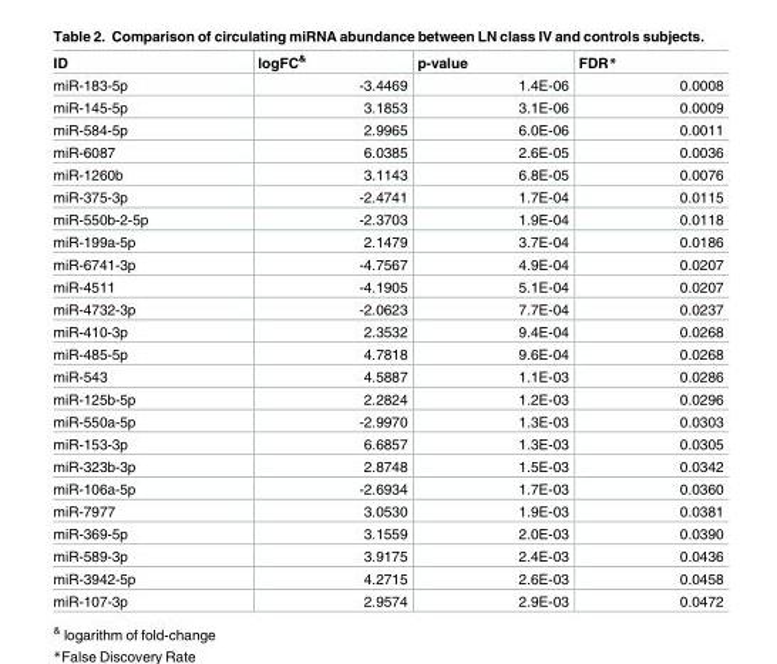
<table><thead><tr><td>ID</td><td>logFC<sup>&amp;</sup></td><td>p-value</td><td>FDR*</td></tr></thead><tbody><tr><td>miR-183-5p</td><td>-3.4469</td><td>1.4E-06</td><td>0.0008</td></tr><tr><td>miR-145-5p</td><td>3.1853</td><td>3.1E-06</td><td>0.0009</td></tr><tr><td>miR-584-5p</td><td>2.9965</td><td>6.0E-06</td><td>0.0011</td></tr><tr><td>miR-6087</td><td>6.0385</td><td>2.6E-05</td><td>0.0036</td></tr><tr><td>miR-1260b</td><td>3.1143</td><td>6.8E-05</td><td>0.0076</td></tr><tr><td>miR-375-3p</td><td>-2.4741</td><td>1.7E-04</td><td>0.0115</td></tr><tr><td>miR-550b-2-5p</td><td>-2.3703</td><td>1.9E-04</td><td>0.0118</td></tr><tr><td>miR-199a-5p</td><td>2.1479</td><td>3.7E-04</td><td>0.0186</td></tr><tr><td>miR-6741-3p</td><td>-4.7567</td><td>4.9E-04</td><td>0.0207</td></tr><tr><td>miR-4511</td><td>-4.1905</td><td>5.1E-04</td><td>0.0207</td></tr><tr><td>miR-4732-3p</td><td>-2.0623</td><td>7.7E-04</td><td>0.0237</td></tr><tr><td>miR-410-3p</td><td>2.3532</td><td>9.4E-04</td><td>0.0268</td></tr><tr><td>miR-485-5p</td><td>4.7818</td><td>9.6E-04</td><td>0.0268</td></tr><tr><td>miR-543</td><td>4.5887</td><td>1.1E-03</td><td>0.0286</td></tr><tr><td>miR-125b-5p</td><td>2.2824</td><td>1.2E-03</td><td>0.0296</td></tr><tr><td>miR-550a-5p</td><td>-2.9970</td><td>1.3E-03</td><td>0.0303</td></tr><tr><td>miR-153-3p</td><td>6.6857</td><td>1.3E-03</td><td>0.0305</td></tr><tr><td>miR-323b-3p</td><td>2.8748</td><td>1.5E-03</td><td>0.0342</td></tr><tr><td>miR-106a-5p</td><td>-2.6934</td><td>1.7E-03</td><td>0.0360</td></tr><tr><td>miR-7977</td><td>3.0530</td><td>1.9E-03</td><td>0.0381</td></tr><tr><td>miR-369-5p</td><td>3.1559</td><td>2.0E-03</td><td>0.0390</td></tr><tr><td>miR-589-3p</td><td>3.9175</td><td>2.4E-03</td><td>0.0436</td></tr><tr><td>miR-3942-5p</td><td>4.2715</td><td>2.6E-03</td><td>0.0458</td></tr><tr><td>miR-107-3p</td><td>2.9574</td><td>2.9E-03</td><td>0.0472</td></tr></tbody></table>